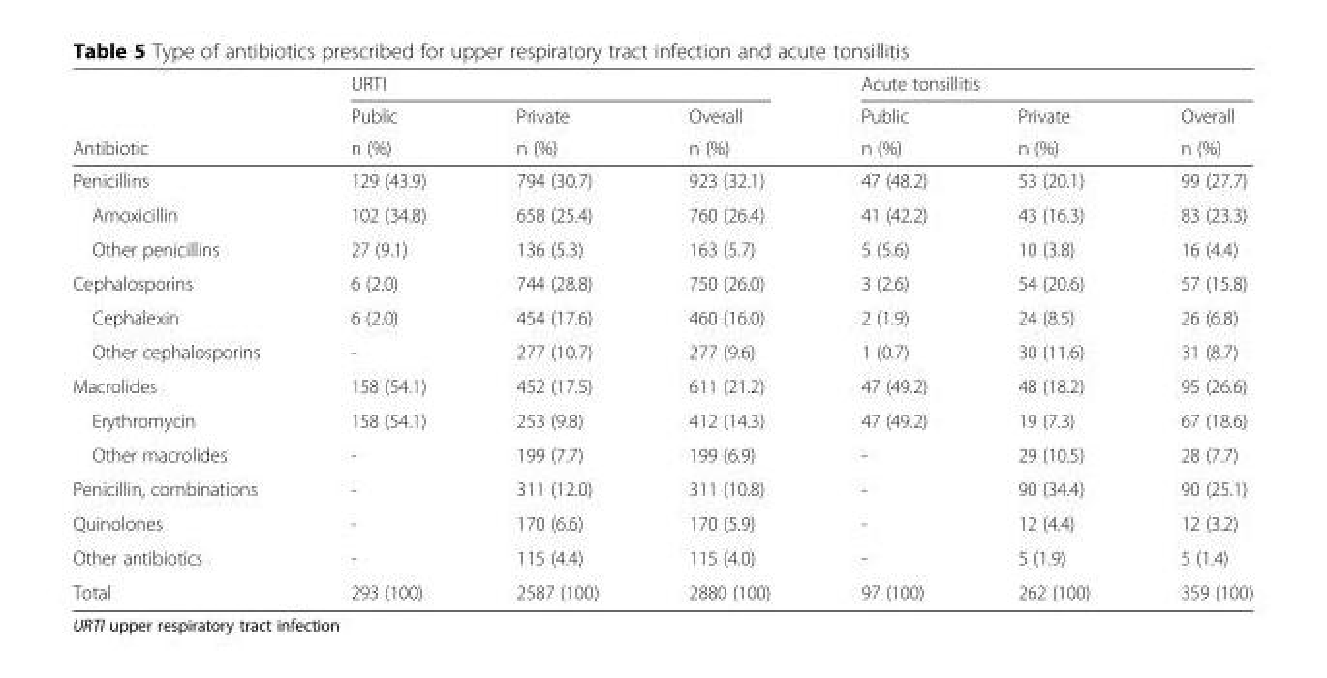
<table><thead><tr><td rowspan="3">Antibiotic</td><td colspan="3">URTI</td><td colspan="3">Acute tonsillitis</td></tr><tr><td rowspan="2">Public n (%)</td><td rowspan="2">Private n (%)</td><td rowspan="2">Overall n (%)</td><td rowspan="2">Public n (%)</td><td rowspan="2">Private n (%)</td><td rowspan="2">Overall n (%)</td></tr><tr></tr></thead><tbody><tr><td>Penicillins</td><td>129 (43.9)</td><td>794 (30.7)</td><td>923 (32.1)</td><td>47 (48.2)</td><td>53 (20.1)</td><td>99 (27.7)</td></tr><tr><td>Amoxicillin</td><td>102 (34.8)</td><td>658 (25.4)</td><td>760 (26.4)</td><td>41 (42.2)</td><td>43 (16.3)</td><td>83 (23.3)</td></tr><tr><td>Other penicillins</td><td>27 (9.1)</td><td>136 (5.3)</td><td>163 (5.7)</td><td>5 (5.6)</td><td>10 (3.8)</td><td>16 (4.4)</td></tr><tr><td>Cephalosporins</td><td>6 (2.0)</td><td>744 (28.8)</td><td>750 (26.0)</td><td>3 (2.6)</td><td>54 (20.6)</td><td>57 (15.8)</td></tr><tr><td>Cephalexin</td><td>6 (2.0)</td><td>454 (17.6)</td><td>460 (16.0)</td><td>2 (1.9)</td><td>24 (8.5)</td><td>26 (6.8)</td></tr><tr><td>Other cephalosporins</td><td>-</td><td>277 (10.7)</td><td>277 (9.6)</td><td>1 (0.7)</td><td>30 (11.6)</td><td>31 (8.7)</td></tr><tr><td>Macrolides</td><td>158 (54.1)</td><td>452 (17.5)</td><td>611 (21.2)</td><td>47 (49.2)</td><td>48 (18.2)</td><td>95 (26.6)</td></tr><tr><td>Erythromycin</td><td>158 (54.1)</td><td>253 (9.8)</td><td>412 (14.3)</td><td>47 (49.2)</td><td>19 (7.3)</td><td>67 (18.6)</td></tr><tr><td>Other macrolides</td><td>-</td><td>199 (7.7)</td><td>199 (6.9)</td><td>-</td><td>29 (10.5)</td><td>28 (7.7)</td></tr><tr><td>Penicillin, combinations</td><td>-</td><td>311 (12.0)</td><td>311 (10.8)</td><td>-</td><td>90 (34.4)</td><td>90 (25.1)</td></tr><tr><td>Quinolones</td><td>-</td><td>170 (6.6)</td><td>170 (5.9)</td><td>-</td><td>12 (4.4)</td><td>12 (3.2)</td></tr><tr><td>Other antibiotics</td><td>-</td><td>115 (4.4)</td><td>115 (4.0)</td><td>-</td><td>5 (1.9)</td><td>5 (1.4)</td></tr><tr><td>Total</td><td>293 (100)</td><td>2587 (100)</td><td>2880 (100)</td><td>97 (100)</td><td>262 (100)</td><td>359 (100)</td></tr></tbody></table>